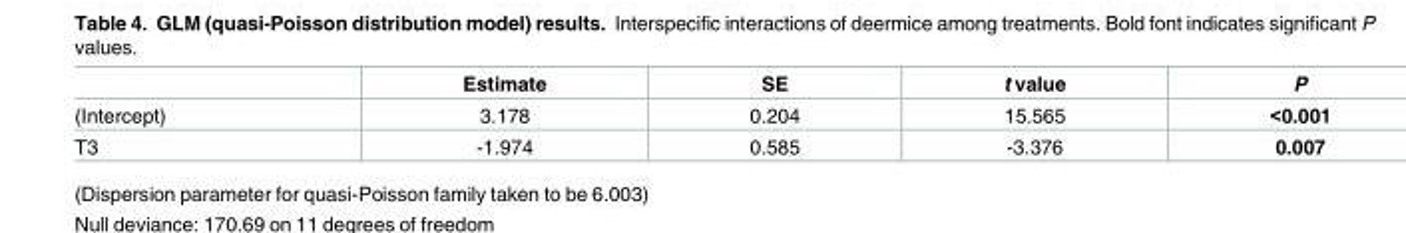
<table><thead><tr><td></td><td>Estimate</td><td>SE</td><td>t value</td><td>P</td></tr></thead><tbody><tr><td>(Intercept)</td><td>3.178</td><td>0.204</td><td>15.565</td><td>&lt;0.001</td></tr><tr><td>T3</td><td>-1.974</td><td>0.585</td><td>-3.376</td><td>0.007</td></tr></tbody></table>